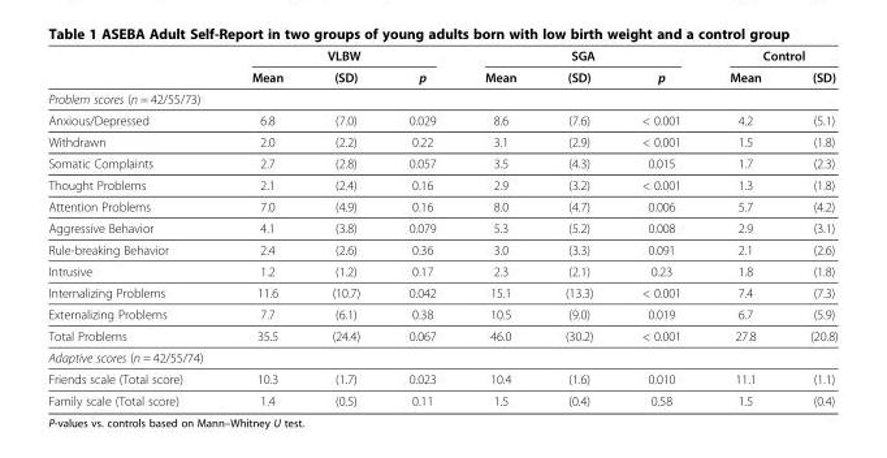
<table><thead><tr><td rowspan="2"></td><td colspan="3">VLBW</td><td colspan="3">SGA</td><td colspan="2">Control</td></tr><tr><td>Mean</td><td>(SD)</td><td>p</td><td>Mean</td><td>(SD)</td><td>p</td><td>Mean</td><td>(SD)</td></tr></thead><tbody><tr><td colspan="9">Problem scores (n = 42/55/73)</td></tr><tr><td>Anxious/Depressed</td><td>6.8</td><td>(7.0)</td><td>0.029</td><td>8.6</td><td>(7.6)</td><td>&lt; 0.001</td><td>4.2</td><td>(5.1)</td></tr><tr><td>Withdrawn</td><td>2.0</td><td>(2.2)</td><td>0.22</td><td>3.1</td><td>(2.9)</td><td>&lt; 0.001</td><td>1.5</td><td>(1.8)</td></tr><tr><td>Somatic Complaints</td><td>2.7</td><td>(2.8)</td><td>0.057</td><td>3.5</td><td>(4.3)</td><td>0.015</td><td>1.7</td><td>(2.3)</td></tr><tr><td>Thought Problems</td><td>2.1</td><td>(2.4)</td><td>0.16</td><td>2.9</td><td>(3.2)</td><td>&lt; 0.001</td><td>1.3</td><td>(1.8)</td></tr><tr><td>Attention Problems</td><td>7.0</td><td>(4.9)</td><td>0.16</td><td>8.0</td><td>(4.7)</td><td>0.006</td><td>5.7</td><td>(4.2)</td></tr><tr><td>Aggressive Behavior</td><td>4.1</td><td>(3.8)</td><td>0.079</td><td>5.3</td><td>(5.2)</td><td>0.008</td><td>2.9</td><td>(3.1)</td></tr><tr><td>Rule-breaking Behavior</td><td>2.4</td><td>(2.6)</td><td>0.36</td><td>3.0</td><td>(3.3)</td><td>0.091</td><td>2.1</td><td>(2.6)</td></tr><tr><td>Intrusive</td><td>1.2</td><td>(1.2)</td><td>0.17</td><td>2.3</td><td>(2.1)</td><td>0.23</td><td>1.8</td><td>(1.8)</td></tr><tr><td>Internalizing Problems</td><td>11.6</td><td>(10.7)</td><td>0.042</td><td>15.1</td><td>(13.3)</td><td>&lt; 0.001</td><td>7.4</td><td>(7.3)</td></tr><tr><td>Externalizing Problems</td><td>7.7</td><td>(6.1)</td><td>0.38</td><td>10.5</td><td>(9.0)</td><td>0.019</td><td>6.7</td><td>(5.9)</td></tr><tr><td>Total Problems</td><td>35.5</td><td>(24.4)</td><td>0.067</td><td>46.0</td><td>(30.2)</td><td>&lt; 0.001</td><td>27.8</td><td>(20.8)</td></tr><tr><td colspan="9">Adaptive scores (n = 42/55/74)</td></tr><tr><td>Friends scale (Total score)</td><td>10.3</td><td>(1.7)</td><td>0.023</td><td>10.4</td><td>(1.6)</td><td>0.010</td><td>11.1</td><td>(1.1)</td></tr><tr><td>Family scale (Total score)</td><td>1.4</td><td>(0.5)</td><td>0.11</td><td>1.5</td><td>(0.4)</td><td>0.58</td><td>1.5</td><td>(0.4)</td></tr></tbody></table>